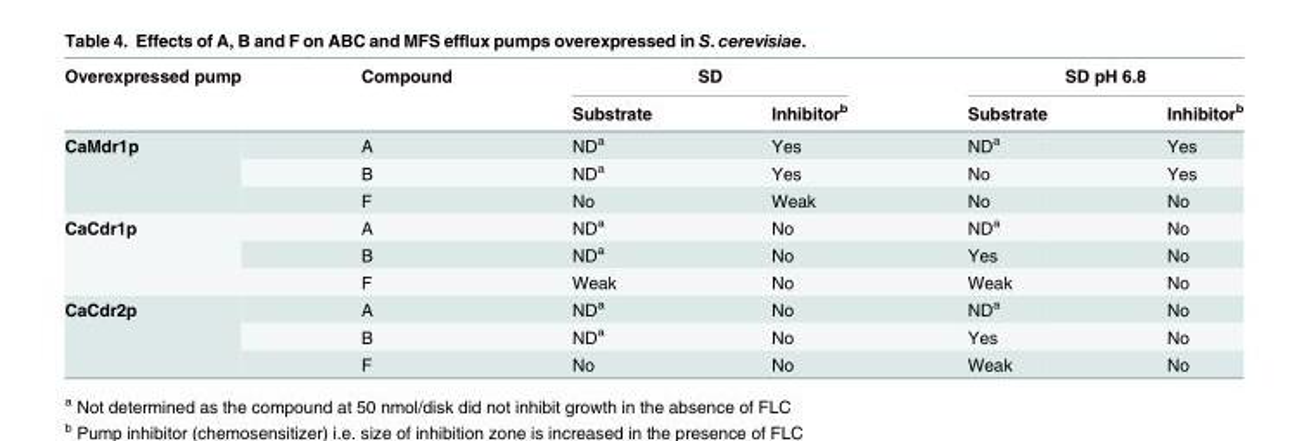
<table><thead><tr><td rowspan="2">Overexpressed pump</td><td rowspan="2">Compound</td><td colspan="2">SD</td><td colspan="2">SD pH 6.8</td></tr><tr><td>Substrate</td><td>Inhibitor<sup>b</sup></td><td>Substrate</td><td>Inhibitor<sup>b</sup></td></tr></thead><tbody><tr><td rowspan="3">CaMdr1p</td><td>A</td><td>ND<sup>a</sup></td><td>Yes</td><td>ND<sup>a</sup></td><td>Yes</td></tr><tr><td>B</td><td>ND<sup>a</sup></td><td>Yes</td><td>No</td><td>Yes</td></tr><tr><td>F</td><td>No</td><td>Weak</td><td>No</td><td>No</td></tr><tr><td rowspan="3">CaCdr1p</td><td>A</td><td>ND<sup>a</sup></td><td>No</td><td>ND<sup>a</sup></td><td>No</td></tr><tr><td>B</td><td>ND<sup>a</sup></td><td>No</td><td>Yes</td><td>No</td></tr><tr><td>F</td><td>Weak</td><td>No</td><td>Weak</td><td>No</td></tr><tr><td rowspan="3">CaCdr2p</td><td>A</td><td>ND<sup>a</sup></td><td>No</td><td>ND<sup>a</sup></td><td>No</td></tr><tr><td>B</td><td>ND<sup>a</sup></td><td>No</td><td>Yes</td><td>No</td></tr><tr><td>F</td><td>No</td><td>No</td><td>Weak</td><td>No</td></tr></tbody></table>